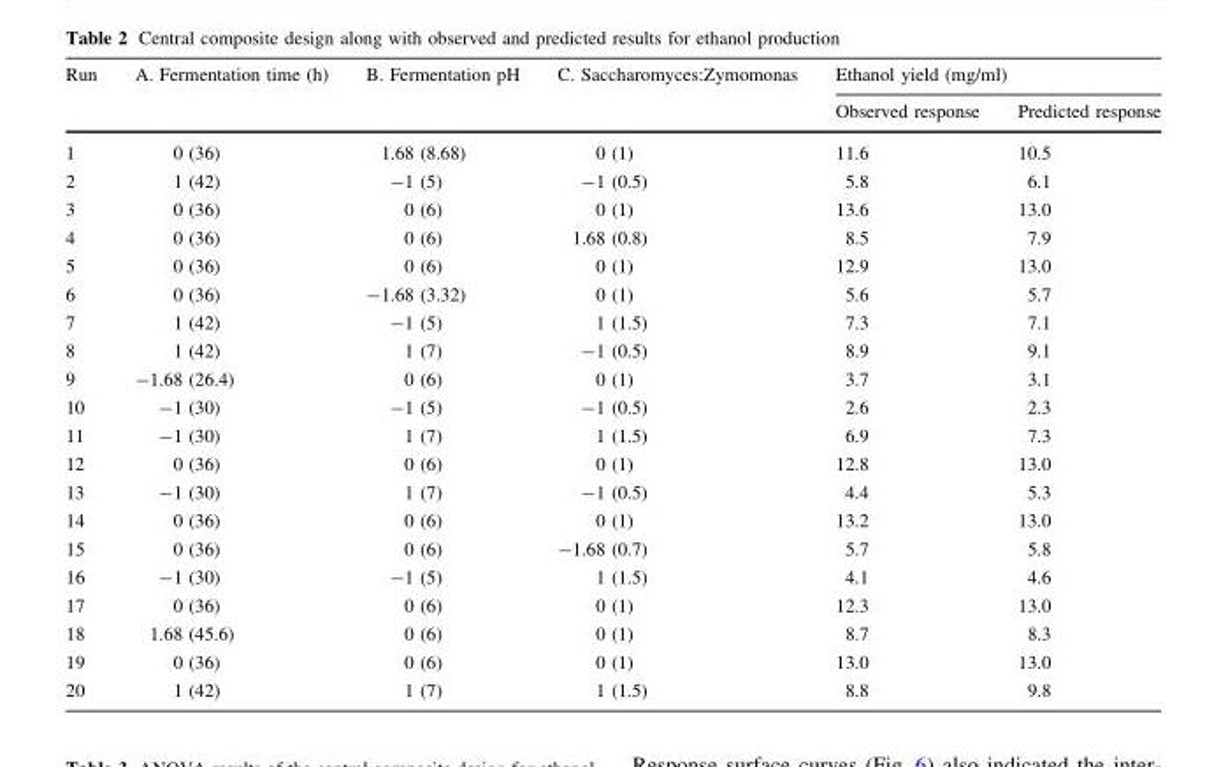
<table><thead><tr><td rowspan="2">Run</td><td rowspan="2">A. Fermentation time (h)</td><td rowspan="2">B. Fermentation pH</td><td rowspan="2">C. Saccharomyces:Zymomonas</td><td colspan="2">Ethanol yield (mg/ml)</td></tr><tr><td>Observed response</td><td>Predicted response</td></tr></thead><tbody><tr><td>1</td><td>0 (36)</td><td>1.68 (8.68)</td><td>0 (1)</td><td>11.6</td><td>10.5</td></tr><tr><td>2</td><td>1 (42)</td><td>-1 (5)</td><td>-1 (0.5)</td><td>5.8</td><td>6.1</td></tr><tr><td>3</td><td>0 (36)</td><td>0 (6)</td><td>0 (1)</td><td>13.6</td><td>13.0</td></tr><tr><td>4</td><td>0 (36)</td><td>0 (6)</td><td>1.68 (0.8)</td><td>8.5</td><td>7.9</td></tr><tr><td>5</td><td>0 (36)</td><td>0 (6)</td><td>0 (1)</td><td>12.9</td><td>13.0</td></tr><tr><td>6</td><td>0 (36)</td><td>-1.68 (3.32)</td><td>0 (1)</td><td>5.6</td><td>5.7</td></tr><tr><td>7</td><td>1 (42)</td><td>-1 (5)</td><td>1 (1.5)</td><td>7.3</td><td>7.1</td></tr><tr><td>8</td><td>1 (42)</td><td>1 (7)</td><td>-1 (0.5)</td><td>8.9</td><td>9.1</td></tr><tr><td>9</td><td>-1.68 (26.4)</td><td>0 (6)</td><td>0 (1)</td><td>3.7</td><td>3.1</td></tr><tr><td>10</td><td>-1 (30)</td><td>-1 (5)</td><td>-1 (0.5)</td><td>2.6</td><td>2.3</td></tr><tr><td>11</td><td>-1 (30)</td><td>1 (7)</td><td>1 (1.5)</td><td>6.9</td><td>7.3</td></tr><tr><td>12</td><td>0 (36)</td><td>0 (6)</td><td>0 (1)</td><td>12.8</td><td>13.0</td></tr><tr><td>13</td><td>-1 (30)</td><td>1 (7)</td><td>-1 (0.5)</td><td>4.4</td><td>5.3</td></tr><tr><td>14</td><td>0 (36)</td><td>0 (6)</td><td>0 (1)</td><td>13.2</td><td>13.0</td></tr><tr><td>15</td><td>0 (36)</td><td>0 (6)</td><td>-1.68 (0.7)</td><td>5.7</td><td>5.8</td></tr><tr><td>16</td><td>-1 (30)</td><td>-1 (5)</td><td>1 (1.5)</td><td>4.1</td><td>4.6</td></tr><tr><td>17</td><td>0 (36)</td><td>0 (6)</td><td>0 (1)</td><td>12.3</td><td>13.0</td></tr><tr><td>18</td><td>1.68 (45.6)</td><td>0 (6)</td><td>0 (1)</td><td>8.7</td><td>8.3</td></tr><tr><td>19</td><td>0 (36)</td><td>0 (6)</td><td>0 (1)</td><td>13.0</td><td>13.0</td></tr><tr><td>20</td><td>1 (42)</td><td>1 (7)</td><td>1 (1.5)</td><td>8.8</td><td>9.8</td></tr></tbody></table>